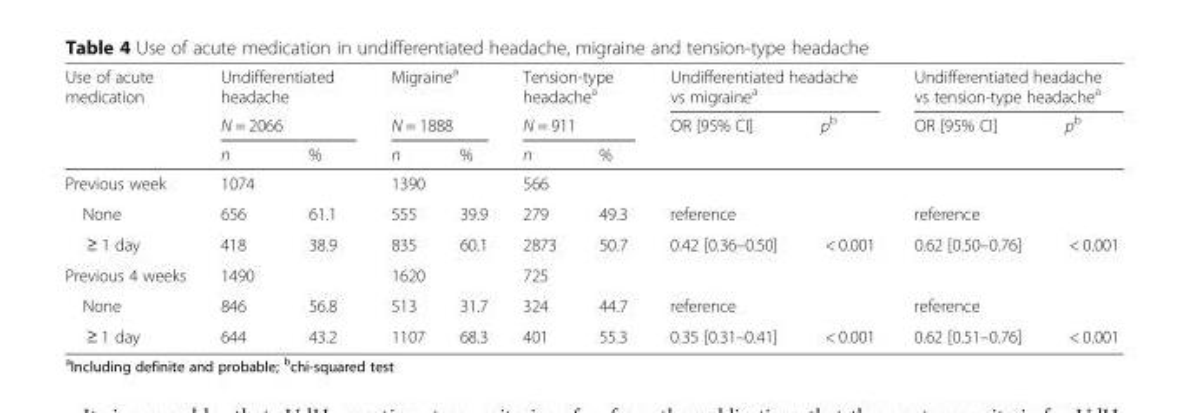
<table><thead><tr><td rowspan="3">Use of acute medication</td><td rowspan="2" colspan="2">Undifferentiated headache N = 2066</td><td rowspan="2" colspan="2">Migraine<sup>a</sup> N = 1888</td><td rowspan="2" colspan="2">Tension-type headache<sup>a</sup> N = 911</td><td colspan="2">Undifferentiated headache vs migraine<sup>a</sup></td><td colspan="2">Undifferentiated headache vs tension-type headache<sup>a</sup></td></tr><tr><td rowspan="2">OR [95% CI]</td><td rowspan="2">p<sup>b</sup></td><td rowspan="2">OR [95% CI]</td><td rowspan="2">p<sup>b</sup></td></tr><tr><td>n</td><td>%</td><td>n</td><td>%</td><td>n</td><td>%</td></tr></thead><tbody><tr><td>Previous week</td><td>1074</td><td></td><td>1390</td><td></td><td>566</td><td></td><td colspan="4"></td></tr><tr><td>None</td><td>656</td><td>61.1</td><td>555</td><td>39.9</td><td>279</td><td>49.3</td><td>reference</td><td></td><td>reference</td><td></td></tr><tr><td>≥ 1 day</td><td>418</td><td>38.9</td><td>835</td><td>60.1</td><td>2873</td><td>50.7</td><td>0.42 [0.36–0.50]</td><td>&lt; 0.001</td><td>0.62 [0.50–0.76]</td><td>&lt; 0.001</td></tr><tr><td>Previous 4 weeks</td><td>1490</td><td></td><td>1620</td><td></td><td>725</td><td></td><td colspan="4"></td></tr><tr><td>None</td><td>846</td><td>56.8</td><td>513</td><td>31.7</td><td>324</td><td>44.7</td><td>reference</td><td></td><td>reference</td><td></td></tr><tr><td>≥ 1 day</td><td>644</td><td>43.2</td><td>1107</td><td>68.3</td><td>401</td><td>55.3</td><td>0.35 [0.31–0.41]</td><td>&lt; 0.001</td><td>0.62 [0.51–0.76]</td><td>&lt; 0.001</td></tr></tbody></table>